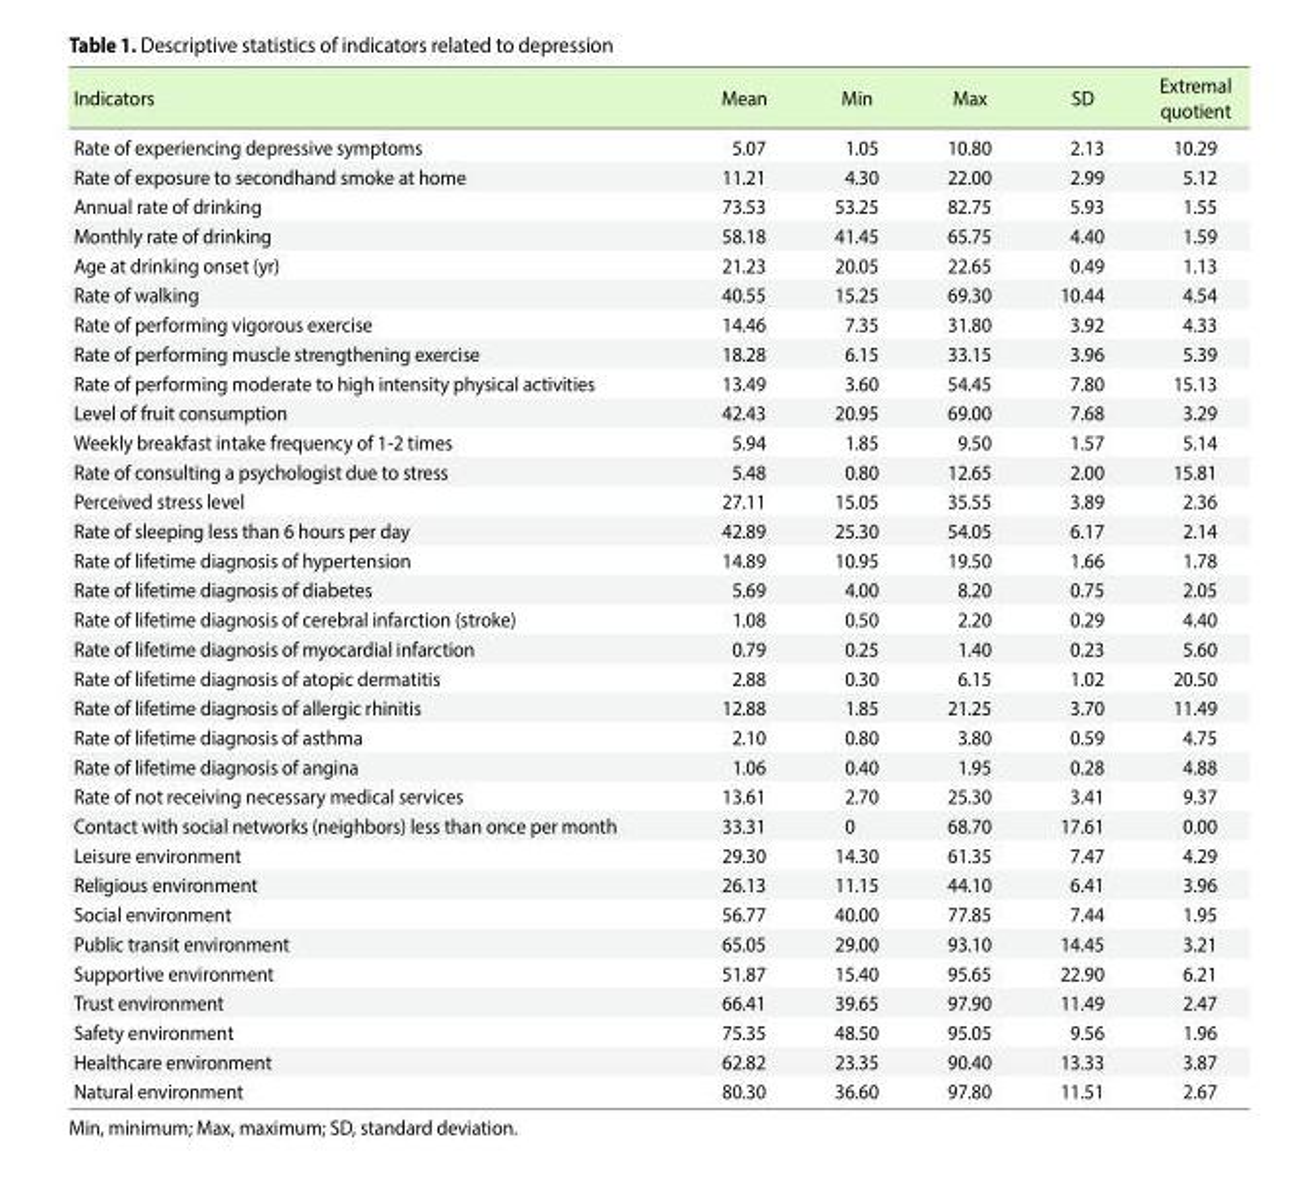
<table><thead><tr><td>Indicators</td><td>Mean</td><td>Min</td><td>Max</td><td>SD</td><td>Extremal quotient</td></tr></thead><tbody><tr><td>Rate of experiencing depressive symptoms</td><td>5.07</td><td>1.05</td><td>10.80</td><td>2.13</td><td>10.29</td></tr><tr><td>Rate of exposure to secondhand smoke at home</td><td>11.21</td><td>4.30</td><td>22.00</td><td>2.99</td><td>5.12</td></tr><tr><td>Annual rate of drinking</td><td>73.53</td><td>53.25</td><td>82.75</td><td>5.93</td><td>1.55</td></tr><tr><td>Monthly rate of drinking</td><td>58.18</td><td>41.45</td><td>65.75</td><td>4.40</td><td>1.59</td></tr><tr><td>Age at drinking onset (yr)</td><td>21.23</td><td>20.05</td><td>22.65</td><td>0.49</td><td>1.13</td></tr><tr><td>Rate of walking</td><td>40.55</td><td>15.25</td><td>69.30</td><td>10.44</td><td>4.54</td></tr><tr><td>Rate of performing vigorous exercise</td><td>14.46</td><td>7.35</td><td>31.80</td><td>3.92</td><td>4.33</td></tr><tr><td>Rate of performing muscle strengthening exercise</td><td>18.28</td><td>6.15</td><td>33.15</td><td>3.96</td><td>5.39</td></tr><tr><td>Rate of performing moderate to high intensity physical activities</td><td>13.49</td><td>3.60</td><td>54.45</td><td>7.80</td><td>15.13</td></tr><tr><td>Level of fruit consumption</td><td>42.43</td><td>20.95</td><td>69.00</td><td>7.68</td><td>3.29</td></tr><tr><td>Weekly breakfast intake frequency of 1-2 times</td><td>5.94</td><td>1.85</td><td>9.50</td><td>1.57</td><td>5.14</td></tr><tr><td>Rate of consulting a psychologist due to stress</td><td>5.48</td><td>0.80</td><td>12.65</td><td>2.00</td><td>15.81</td></tr><tr><td>Perceived stress level</td><td>27.11</td><td>15.05</td><td>35.55</td><td>3.89</td><td>2.36</td></tr><tr><td>Rate of sleeping less than 6 hours per day</td><td>42.89</td><td>25.30</td><td>54.05</td><td>6.17</td><td>2.14</td></tr><tr><td>Rate of lifetime diagnosis of hypertension</td><td>14.89</td><td>10.95</td><td>19.50</td><td>1.66</td><td>1.78</td></tr><tr><td>Rate of lifetime diagnosis of diabetes</td><td>5.69</td><td>4.00</td><td>8.20</td><td>0.75</td><td>2.05</td></tr><tr><td>Rate of lifetime diagnosis of cerebral infarction (stroke)</td><td>1.08</td><td>0.50</td><td>2.20</td><td>0.29</td><td>4.40</td></tr><tr><td>Rate of lifetime diagnosis of myocardial infarction</td><td>0.79</td><td>0.25</td><td>1.40</td><td>0.23</td><td>5.60</td></tr><tr><td>Rate of lifetime diagnosis of atopic dermatitis</td><td>2.88</td><td>0.30</td><td>6.15</td><td>1.02</td><td>20.50</td></tr><tr><td>Rate of lifetime diagnosis of allergic rhinitis</td><td>12.88</td><td>1.85</td><td>21.25</td><td>3.70</td><td>11.49</td></tr><tr><td>Rate of lifetime diagnosis of asthma</td><td>2.10</td><td>0.80</td><td>3.80</td><td>0.59</td><td>4.75</td></tr><tr><td>Rate of lifetime diagnosis of angina</td><td>1.06</td><td>0.40</td><td>1.95</td><td>0.28</td><td>4.88</td></tr><tr><td>Rate of not receiving necessary medical services</td><td>13.61</td><td>2.70</td><td>25.30</td><td>3.41</td><td>9.37</td></tr><tr><td>Contact with social networks (neighbors) less than once per month</td><td>33.31</td><td>0</td><td>68.70</td><td>17.61</td><td>0.00</td></tr><tr><td>Leisure environment</td><td>29.30</td><td>14.30</td><td>61.35</td><td>7.47</td><td>4.29</td></tr><tr><td>Religious environment</td><td>26.13</td><td>11.15</td><td>44.10</td><td>6.41</td><td>3.96</td></tr><tr><td>Social environment</td><td>56.77</td><td>40.00</td><td>77.85</td><td>7.44</td><td>1.95</td></tr><tr><td>Public transit environment</td><td>65.05</td><td>29.00</td><td>93.10</td><td>14.45</td><td>3.21</td></tr><tr><td>Supportive environment</td><td>51.87</td><td>15.40</td><td>95.65</td><td>22.90</td><td>6.21</td></tr><tr><td>Trust environment</td><td>66.41</td><td>39.65</td><td>97.90</td><td>11.49</td><td>2.47</td></tr><tr><td>Safety environment</td><td>75.35</td><td>48.50</td><td>95.05</td><td>9.56</td><td>1.96</td></tr><tr><td>Healthcare environment</td><td>62.82</td><td>23.35</td><td>90.40</td><td>13.33</td><td>3.87</td></tr><tr><td>Natural environment</td><td>80.30</td><td>36.60</td><td>97.80</td><td>11.51</td><td>2.67</td></tr></tbody></table>